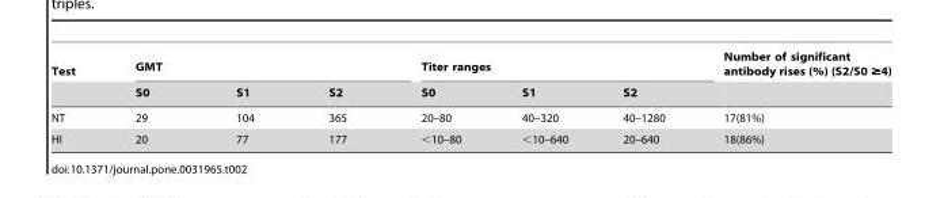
<table><thead><tr><td rowspan="2">Test</td><td colspan="3">GMT</td><td colspan="3">Titer ranges</td><td rowspan="2">Number of significant antibody rises (%) (S2/S0 ≥4)</td></tr><tr><td>S0</td><td>S1</td><td>S2</td><td>S0</td><td>S1</td><td>S2</td></tr></thead><tbody><tr><td>NT</td><td>29</td><td>104</td><td>365</td><td>20–80</td><td>40–320</td><td>40–1280</td><td>17(81%)</td></tr><tr><td>HI</td><td>20</td><td>77</td><td>177</td><td>&lt;10–80</td><td>&lt;10–640</td><td>20–640</td><td>18(86%)</td></tr></tbody></table>